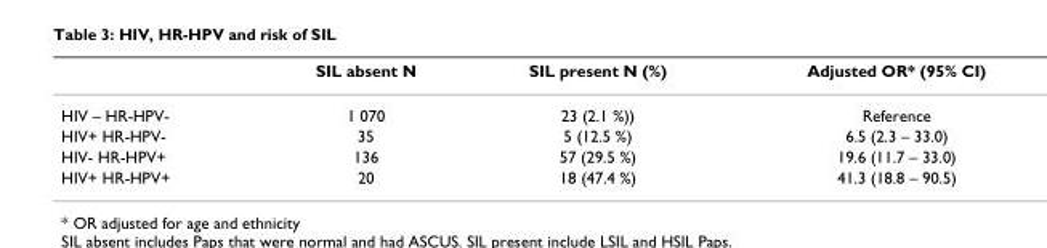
<table><thead><tr><td></td><td>SIL absent N</td><td>SIL present N (%)</td><td>Adjusted OR* (95% CI)</td></tr></thead><tbody><tr><td>HIV – HR-HPV-</td><td>1 070</td><td>23 (2.1 %))</td><td>Reference</td></tr><tr><td>HIV+ HR-HPV-</td><td>35</td><td>5 (12.5 %)</td><td>6.5 (2.3 – 33.0)</td></tr><tr><td>HIV- HR-HPV+</td><td>136</td><td>57 (29.5 %)</td><td>19.6 (11.7 – 33.0)</td></tr><tr><td>HIV+ HR-HPV+</td><td>20</td><td>18 (47.4 %)</td><td>41.3 (18.8 – 90.5)</td></tr></tbody></table>